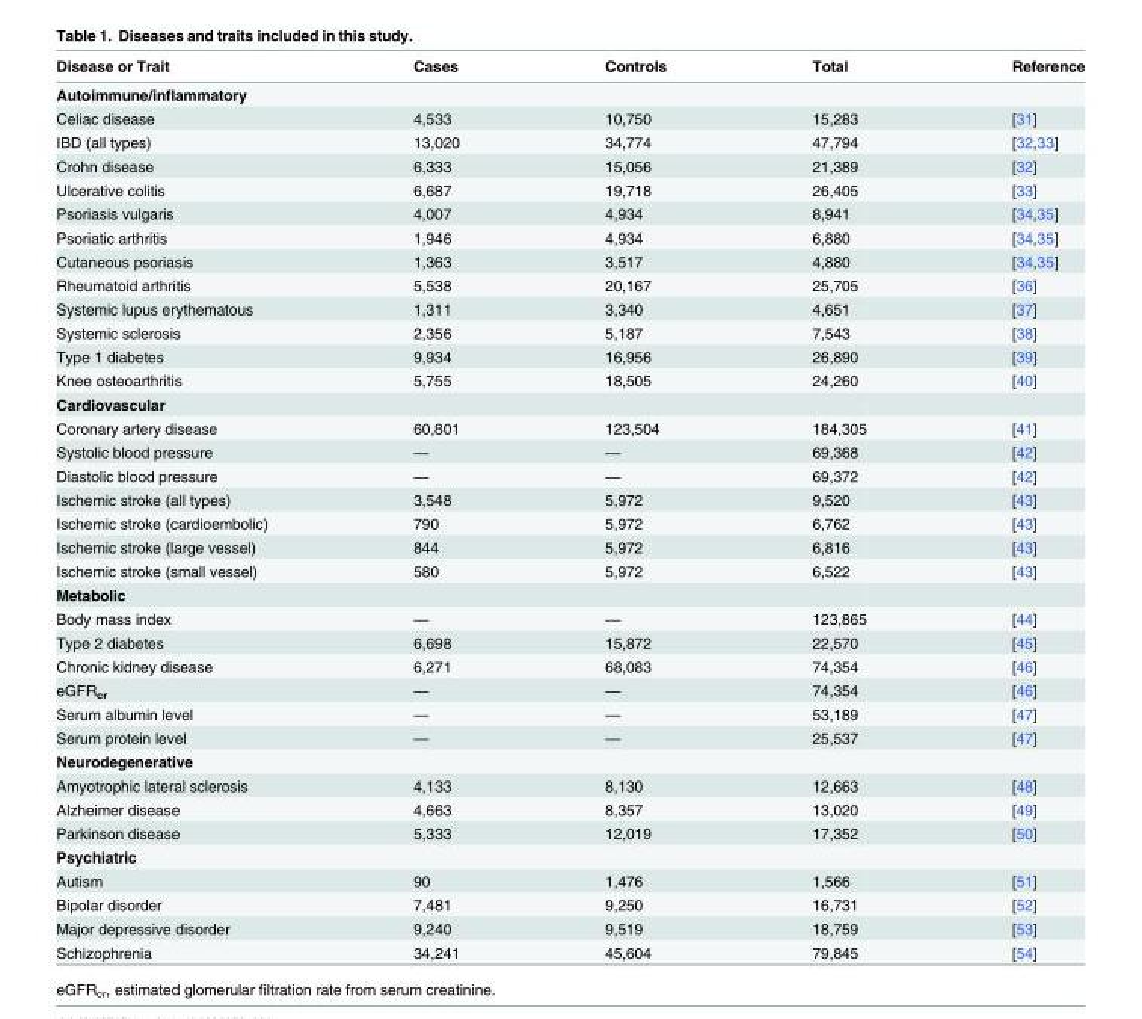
<table><thead><tr><td>Disease or Trait</td><td>Cases</td><td>Controls</td><td>Total</td><td>Reference</td></tr></thead><tbody><tr><td colspan="5">Autoimmune/inflammatory</td></tr><tr><td>Celiac disease</td><td>4,533</td><td>10,750</td><td>15,283</td><td>[31]</td></tr><tr><td>IBD (all types)</td><td>13,020</td><td>34,774</td><td>47,794</td><td>[32,33]</td></tr><tr><td>Crohn disease</td><td>6,333</td><td>15,056</td><td>21,389</td><td>[32]</td></tr><tr><td>Ulcerative colitis</td><td>6,687</td><td>19,718</td><td>26,405</td><td>[33]</td></tr><tr><td>Psoriasis vulgaris</td><td>4,007</td><td>4,934</td><td>8,941</td><td>[34,35]</td></tr><tr><td>Psoriatic arthritis</td><td>1,946</td><td>4,934</td><td>6,880</td><td>[34,35]</td></tr><tr><td>Cutaneous psoriasis</td><td>1,363</td><td>3,517</td><td>4,880</td><td>[34,35]</td></tr><tr><td>Rheumatoid arthritis</td><td>5,538</td><td>20,167</td><td>25,705</td><td>[36]</td></tr><tr><td>Systemic lupus erythematous</td><td>1,311</td><td>3,340</td><td>4,651</td><td>[37]</td></tr><tr><td>Systemic sclerosis</td><td>2,356</td><td>5,187</td><td>7,543</td><td>[38]</td></tr><tr><td>Type 1 diabetes</td><td>9,934</td><td>16,956</td><td>26,890</td><td>[39]</td></tr><tr><td>Knee osteoarthritis</td><td>5,755</td><td>18,505</td><td>24,260</td><td>[40]</td></tr><tr><td colspan="5">Cardiovascular</td></tr><tr><td>Coronary artery disease</td><td>60,801</td><td>123,504</td><td>184,305</td><td>[41]</td></tr><tr><td>Systolic blood pressure</td><td>—</td><td>—</td><td>69,368</td><td>[42]</td></tr><tr><td>Diastolic blood pressure</td><td>—</td><td>—</td><td>69,372</td><td>[42]</td></tr><tr><td>Ischemic stroke (all types)</td><td>3,548</td><td>5,972</td><td>9,520</td><td>[43]</td></tr><tr><td>Ischemic stroke (cardioembolic)</td><td>790</td><td>5,972</td><td>6,762</td><td>[43]</td></tr><tr><td>Ischemic stroke (large vessel)</td><td>844</td><td>5,972</td><td>6,816</td><td>[43]</td></tr><tr><td>Ischemic stroke (small vessel)</td><td>580</td><td>5,972</td><td>6,522</td><td>[43]</td></tr><tr><td colspan="5">Metabolic</td></tr><tr><td>Body mass index</td><td>—</td><td>—</td><td>123,865</td><td>[44]</td></tr><tr><td>Type 2 diabetes</td><td>6,698</td><td>15,872</td><td>22,570</td><td>[45]</td></tr><tr><td>Chronic kidney disease</td><td>6,271</td><td>68,083</td><td>74,354</td><td>[46]</td></tr><tr><td>eGFR<sub>cr</sub></td><td>—</td><td>—</td><td>74,354</td><td>[46]</td></tr><tr><td>Serum albumin level</td><td>—</td><td>—</td><td>53,189</td><td>[47]</td></tr><tr><td>Serum protein level</td><td>—</td><td>—</td><td>25,537</td><td>[47]</td></tr><tr><td colspan="5">Neurodegenerative</td></tr><tr><td>Amyotrophic lateral sclerosis</td><td>4,133</td><td>8,130</td><td>12,663</td><td>[48]</td></tr><tr><td>Alzheimer disease</td><td>4,663</td><td>8,357</td><td>13,020</td><td>[49]</td></tr><tr><td>Parkinson disease</td><td>5,333</td><td>12,019</td><td>17,352</td><td>[50]</td></tr><tr><td colspan="5">Psychiatric</td></tr><tr><td>Autism</td><td>90</td><td>1,476</td><td>1,566</td><td>[51]</td></tr><tr><td>Bipolar disorder</td><td>7,481</td><td>9,250</td><td>16,731</td><td>[52]</td></tr><tr><td>Major depressive disorder</td><td>9,240</td><td>9,519</td><td>18,759</td><td>[53]</td></tr><tr><td>Schizophrenia</td><td>34,241</td><td>45,604</td><td>79,845</td><td>[54]</td></tr></tbody></table>